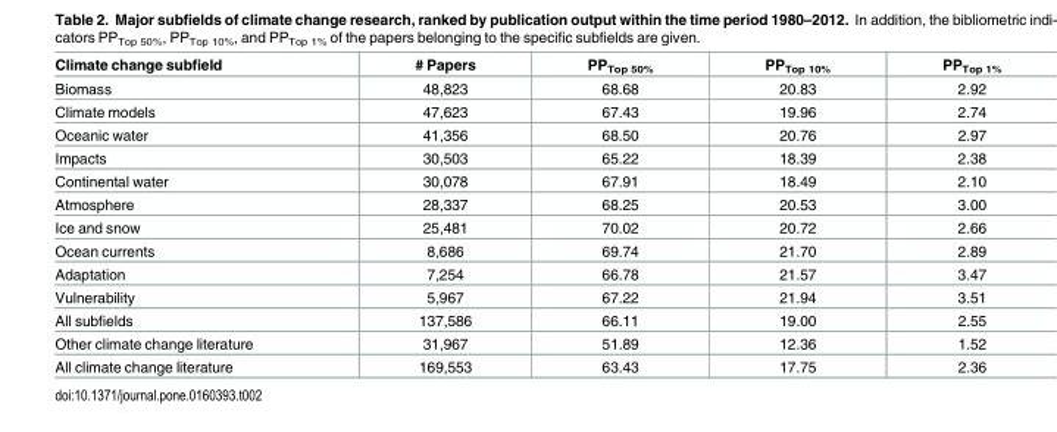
<table><thead><tr><td>Climate change subfield</td><td># Papers</td><td>PP<sub>Top 50%</sub></td><td>PP<sub>Top 10%</sub></td><td>PP<sub>Top 1%</sub></td></tr></thead><tbody><tr><td>Biomass</td><td>48,823</td><td>68.68</td><td>20.83</td><td>2.92</td></tr><tr><td>Climate models</td><td>47,623</td><td>67.43</td><td>19.96</td><td>2.74</td></tr><tr><td>Oceanic water</td><td>41,356</td><td>68.50</td><td>20.76</td><td>2.97</td></tr><tr><td>Impacts</td><td>30,503</td><td>65.22</td><td>18.39</td><td>2.38</td></tr><tr><td>Continental water</td><td>30,078</td><td>67.91</td><td>18.49</td><td>2.10</td></tr><tr><td>Atmosphere</td><td>28,337</td><td>68.25</td><td>20.53</td><td>3.00</td></tr><tr><td>Ice and snow</td><td>25,481</td><td>70.02</td><td>20.72</td><td>2.66</td></tr><tr><td>Ocean currents</td><td>8,686</td><td>69.74</td><td>21.70</td><td>2.89</td></tr><tr><td>Adaptation</td><td>7,254</td><td>66.78</td><td>21.57</td><td>3.47</td></tr><tr><td>Vulnerability</td><td>5,967</td><td>67.22</td><td>21.94</td><td>3.51</td></tr><tr><td>All subfields</td><td>137,586</td><td>66.11</td><td>19.00</td><td>2.55</td></tr><tr><td>Other climate change literature</td><td>31,967</td><td>51.89</td><td>12.36</td><td>1.52</td></tr><tr><td>All climate change literature</td><td>169,553</td><td>63.43</td><td>17.75</td><td>2.36</td></tr></tbody></table>